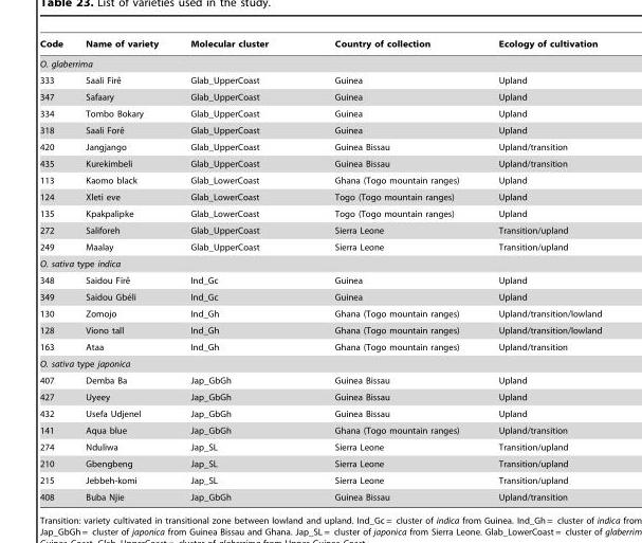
<table><thead><tr><td>Code</td><td>Name of variety</td><td>Molecular cluster</td><td>Country of collection</td><td>Ecology of cultivation</td></tr></thead><tbody><tr><td colspan="5">O. glaberrima</td></tr><tr><td>333</td><td>Saali Fireˆ</td><td>Glab_UpperCoast</td><td>Guinea</td><td>Upland</td></tr><tr><td>347</td><td>Safaary</td><td>Glab_UpperCoast</td><td>Guinea</td><td>Upland</td></tr><tr><td>334</td><td>Tombo Bokary</td><td>Glab_UpperCoast</td><td>Guinea</td><td>Upland</td></tr><tr><td>318</td><td>Saali Foreˆ</td><td>Glab_UpperCoast</td><td>Guinea</td><td>Upland</td></tr><tr><td>420</td><td>Jangjango</td><td>Glab_UpperCoast</td><td>Guinea Bissau</td><td>Upland/transition</td></tr><tr><td>435</td><td>Kurekimbeli</td><td>Glab_UpperCoast</td><td>Guinea Bissau</td><td>Upland/transition</td></tr><tr><td>113</td><td>Kaomo black</td><td>Glab_LowerCoast</td><td>Ghana (Togo mountain ranges)</td><td>Upland</td></tr><tr><td>124</td><td>Xleti eve</td><td>Glab_LowerCoast</td><td>Togo (Togo mountain ranges)</td><td>Upland</td></tr><tr><td>135</td><td>Kpakpalipke</td><td>Glab_LowerCoast</td><td>Togo (Togo mountain ranges)</td><td>Upland</td></tr><tr><td>272</td><td>Saliforeh</td><td>Glab_UpperCoast</td><td>Sierra Leone</td><td>Transition/upland</td></tr><tr><td>249</td><td>Maalay</td><td>Glab_UpperCoast</td><td>Sierra Leone</td><td>Transition/upland</td></tr><tr><td colspan="5">O. sativa type indica</td></tr><tr><td>348</td><td>Saidou Fireˆ</td><td>Ind_Gc</td><td>Guinea</td><td>Upland</td></tr><tr><td>349</td><td>Saidou Gbe´li</td><td>Ind_Gc</td><td>Guinea</td><td>Upland</td></tr><tr><td>130</td><td>Zomojo</td><td>Ind_Gh</td><td>Ghana (Togo mountain ranges)</td><td>Upland/transition/lowland</td></tr><tr><td>128</td><td>Viono tall</td><td>Ind_Gh</td><td>Ghana (Togo mountain ranges)</td><td>Upland/transition/lowland</td></tr><tr><td>163</td><td>Ataa</td><td>Ind_Gh</td><td>Ghana (Togo mountain ranges)</td><td>Upland/transition</td></tr><tr><td colspan="5">O. sativa type japonica</td></tr><tr><td>407</td><td>Demba Ba</td><td>Jap_GbGh</td><td>Guinea Bissau</td><td>Upland</td></tr><tr><td>427</td><td>Uyeey</td><td>Jap_GbGh</td><td>Guinea Bissau</td><td>Upland</td></tr><tr><td>432</td><td>Usefa Udjenel</td><td>Jap_GbGh</td><td>Guinea Bissau</td><td>Upland</td></tr><tr><td>141</td><td>Aqua blue</td><td>Jap_GbGh</td><td>Ghana (Togo mountain ranges)</td><td>Upland/transition</td></tr><tr><td>274</td><td>Nduliwa</td><td>Jap_SL</td><td>Sierra Leone</td><td>Transition/upland</td></tr><tr><td>210</td><td>Gbengbeng</td><td>Jap_SL</td><td>Sierra Leone</td><td>Transition/upland</td></tr><tr><td>215</td><td>Jebbeh-komi</td><td>Jap_SL</td><td>Sierra Leone</td><td>Transition/upland</td></tr><tr><td>408</td><td>Buba Njie</td><td>Jap_GbGh</td><td>Guinea Bissau</td><td>Upland/transition</td></tr></tbody></table>